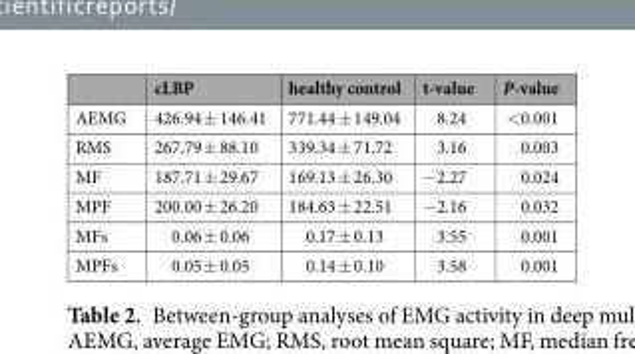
<table><thead><tr><td></td><td>cLBP</td><td>healthy control</td><td>t-value</td><td>P-value</td></tr></thead><tbody><tr><td>AEMG</td><td>426.94 ± 146.41</td><td>771.44 ± 149.04</td><td>8.24</td><td>&lt;0.001</td></tr><tr><td>RMS</td><td>267.79 ± 88.10</td><td>339.34 ± 71.72</td><td>3.16</td><td>0.003</td></tr><tr><td>MF</td><td>187.71 ± 29.67</td><td>169.13 ± 26.30</td><td>−2.27</td><td>0.024</td></tr><tr><td>MPF</td><td>200.00 ± 26.20</td><td>184.63 ± 22.51</td><td>−2.16</td><td>0.032</td></tr><tr><td>MFs</td><td>0.06 ± 0.06</td><td>0.17 ± 0.13</td><td>3.55</td><td>0.001</td></tr><tr><td>MPFs</td><td>0.05 ± 0.05</td><td>0.14 ± 0.10</td><td>3.58</td><td>0.001</td></tr></tbody></table>